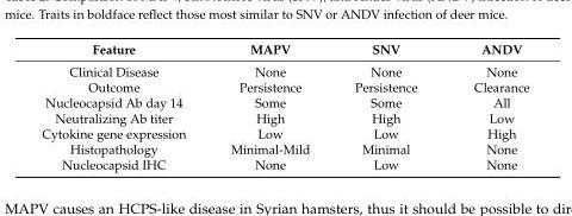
<table><thead><tr><td>Feature</td><td>MAPV</td><td>SNV</td><td>ANDV</td></tr></thead><tbody><tr><td>Clinical Disease</td><td>None</td><td>None</td><td>None</td></tr><tr><td>Outcome</td><td>Persistence</td><td>Persistence</td><td>Clearance</td></tr><tr><td>Nucleocapsid Ab day 14</td><td>Some</td><td>Some</td><td>All</td></tr><tr><td>Neutralizing Ab titer</td><td>High</td><td>High</td><td>Low</td></tr><tr><td>Cytokine gene expression</td><td>Low</td><td>Low</td><td>High</td></tr><tr><td>Histopathology</td><td>Minimal-Mild</td><td>Minimal</td><td>None</td></tr><tr><td>Nucleocapsid IHC</td><td>None</td><td>Low</td><td>None</td></tr></tbody></table>